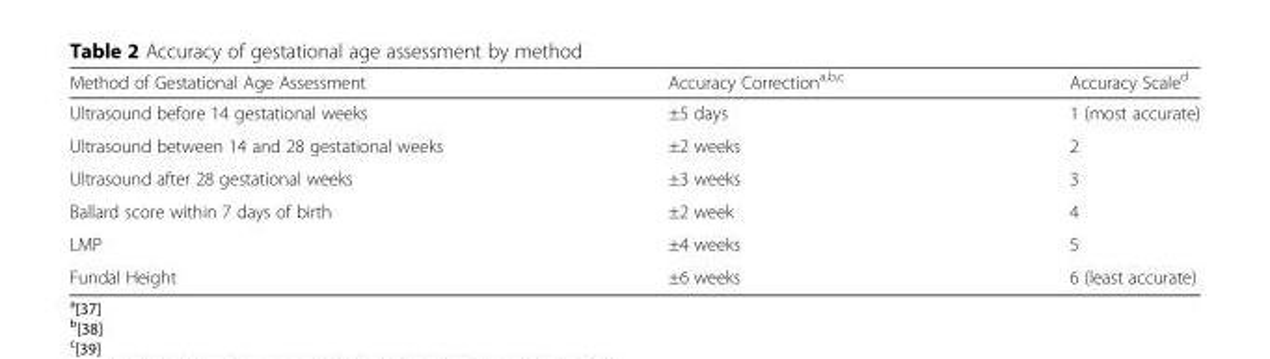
<table><thead><tr><td>Method of Gestational Age Assessment</td><td>Accuracy Correction<sup>a,b,c</sup></td><td>Accuracy Scale<sup>d</sup></td></tr></thead><tbody><tr><td>Ultrasound before 14 gestational weeks</td><td>±5 days</td><td>1 (most accurate)</td></tr><tr><td>Ultrasound between 14 and 28 gestational weeks</td><td>±2 weeks</td><td>2</td></tr><tr><td>Ultrasound after 28 gestational weeks</td><td>±3 weeks</td><td>3</td></tr><tr><td>Ballard score within 7 days of birth</td><td>±2 week</td><td>4</td></tr><tr><td>LMP</td><td>±4 weeks</td><td>5</td></tr><tr><td>Fundal Height</td><td>±6 weeks</td><td>6 (least accurate)</td></tr></tbody></table>